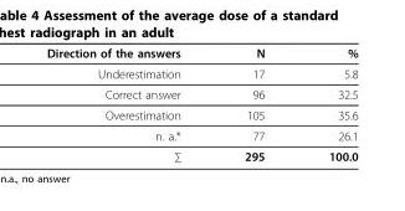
<table><thead><tr><td>Direction of the answers</td><td>N</td><td>%</td></tr></thead><tbody><tr><td>Underestimation</td><td>17</td><td>5.8</td></tr><tr><td>Correct answer</td><td>96</td><td>32.5</td></tr><tr><td>Overestimation</td><td>105</td><td>35.6</td></tr><tr><td>n. a.*</td><td>77</td><td>26.1</td></tr><tr><td>∑</td><td>295</td><td>100.0</td></tr></tbody></table>